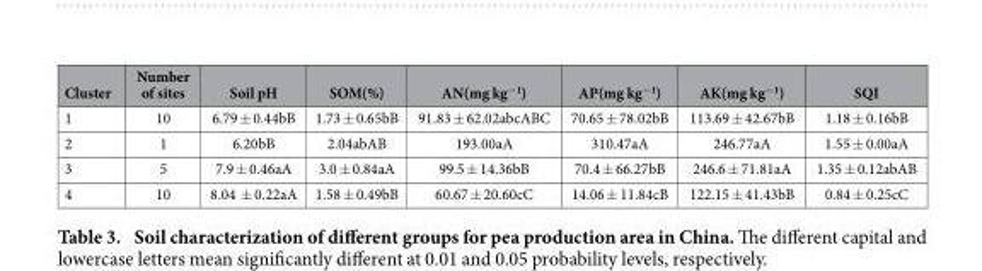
<table><thead><tr><td>Cluster</td><td>Number of sites</td><td>Soil pH</td><td>SOM(%)</td><td>AN(mg kg<sup>−1</sup>)</td><td>AP(mg kg<sup>−1</sup>)</td><td>AK(mg kg<sup>−1</sup>)</td><td>SQI</td></tr></thead><tbody><tr><td>1</td><td>10</td><td>6.79 ± 0.44bB</td><td>1.73 ± 0.65bB</td><td>91.83 ± 62.02abcABC</td><td>70.65 ± 78.02bB</td><td>113.69 ± 42.67bB</td><td>1.18 ± 0.16bB</td></tr><tr><td>2</td><td>1</td><td>6.20bB</td><td>2.04abAB</td><td>193.00aA</td><td>310.47aA</td><td>246.77aA</td><td>1.55 ± 0.00aA</td></tr><tr><td>3</td><td>5</td><td>7.9 ± 0.46aA</td><td>3.0 ± 0.84aA</td><td>99.5 ± 14.36bB</td><td>70.4 ± 66.27bB</td><td>246.6 ± 71.81aA</td><td>1.35 ± 0.12abAB</td></tr><tr><td>4</td><td>10</td><td>8.04 ± 0.22aA</td><td>1.58 ± 0.49bB</td><td>60.67 ± 20.60cC</td><td>14.06 ± 11.84cB</td><td>122.15 ± 41.43bB</td><td>0.84 ± 0.25cC</td></tr></tbody></table>